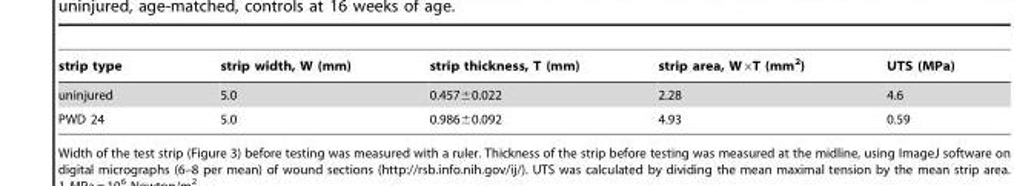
<table><thead><tr><td>strip type</td><td>strip width, W (mm)</td><td>strip thickness, T (mm)</td><td>strip area, W×T (mm<sup>2</sup>)</td><td>UTS (MPa)</td></tr></thead><tbody><tr><td>uninjured</td><td>5.0</td><td>0.457±0.022</td><td>2.28</td><td>4.6</td></tr><tr><td>PWD 24</td><td>5.0</td><td>0.986±0.092</td><td>4.93</td><td>0.59</td></tr></tbody></table>